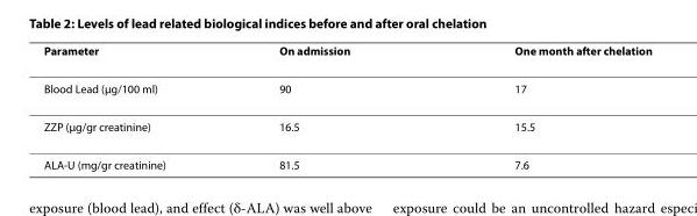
<table><thead><tr><td>Parameter</td><td>On admission</td><td>One month after chelation</td></tr></thead><tbody><tr><td>Blood Lead (μg/100 ml)</td><td>90</td><td>17</td></tr><tr><td>ZZP (μg/gr creatinine)</td><td>16.5</td><td>15.5</td></tr><tr><td>ALA-U (mg/gr creatinine)</td><td>81.5</td><td>7.6</td></tr></tbody></table>